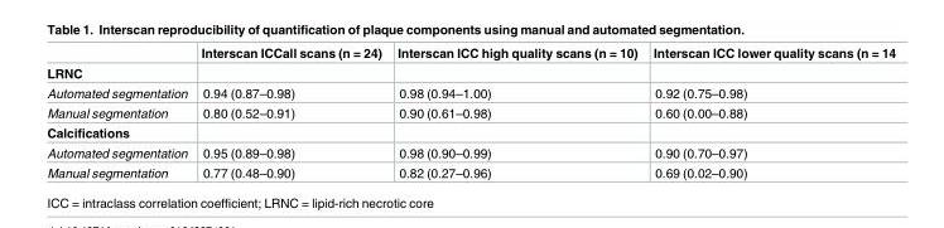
<table><thead><tr><td></td><td>Interscan ICCall scans (n = 24)</td><td>Interscan ICC high quality scans (n = 10)</td><td>Interscan ICC lower quality scans (n = 14</td></tr></thead><tbody><tr><td colspan="4">LRNC</td></tr><tr><td>Automated segmentation</td><td>0.94 (0.87–0.98)</td><td>0.98 (0.94–1.00)</td><td>0.92 (0.75–0.98)</td></tr><tr><td>Manual segmentation</td><td>0.80 (0.52–0.91)</td><td>0.90 (0.61–0.98)</td><td>0.60 (0.00–0.88)</td></tr><tr><td colspan="4">Calcifications</td></tr><tr><td>Automated segmentation</td><td>0.95 (0.89–0.98)</td><td>0.98 (0.90–0.99)</td><td>0.90 (0.70–0.97)</td></tr><tr><td>Manual segmentation</td><td>0.77 (0.48–0.90)</td><td>0.82 (0.27–0.96)</td><td>0.69 (0.02–0.90)</td></tr></tbody></table>